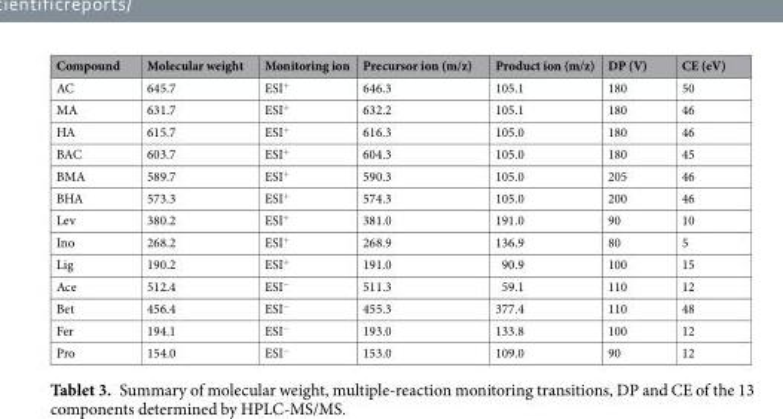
<table><thead><tr><td>Compound</td><td>Molecular weight</td><td>Monitoring ion</td><td>Precursor ion (m/z)</td><td>Product ion (m/z)</td><td>DP (V)</td><td>CE (eV)</td></tr></thead><tbody><tr><td>AC</td><td>645.7</td><td>ESI<sup>+</sup></td><td>646.3</td><td>105.1</td><td>180</td><td>50</td></tr><tr><td>MA</td><td>631.7</td><td>ESI<sup>+</sup></td><td>632.2</td><td>105.1</td><td>180</td><td>46</td></tr><tr><td>HA</td><td>615.7</td><td>ESI<sup>+</sup></td><td>616.3</td><td>105.0</td><td>180</td><td>46</td></tr><tr><td>BAC</td><td>603.7</td><td>ESI<sup>+</sup></td><td>604.3</td><td>105.0</td><td>180</td><td>45</td></tr><tr><td>BMA</td><td>589.7</td><td>ESI<sup>+</sup></td><td>590.3</td><td>105.0</td><td>205</td><td>46</td></tr><tr><td>BHA</td><td>573.3</td><td>ESI<sup>+</sup></td><td>574.3</td><td>105.0</td><td>200</td><td>46</td></tr><tr><td>Lev</td><td>380.2</td><td>ESI<sup>+</sup></td><td>381.0</td><td>191.0</td><td>90</td><td>10</td></tr><tr><td>Ino</td><td>268.2</td><td>ESI<sup>+</sup></td><td>268.9</td><td>136.9</td><td>80</td><td>5</td></tr><tr><td>Lig</td><td>190.2</td><td>ESI<sup>+</sup></td><td>191.0</td><td>90.9</td><td>100</td><td>15</td></tr><tr><td>Ace</td><td>512.4</td><td>ESI<sup>−</sup></td><td>511.3</td><td>59.1</td><td>110</td><td>12</td></tr><tr><td>Bet</td><td>456.4</td><td>ESI<sup>−</sup></td><td>455.3</td><td>377.4</td><td>110</td><td>48</td></tr><tr><td>Fer</td><td>194.1</td><td>ESI<sup>−</sup></td><td>193.0</td><td>133.8</td><td>100</td><td>12</td></tr><tr><td>Pro</td><td>154.0</td><td>ESI<sup>−</sup></td><td>153.0</td><td>109.0</td><td>90</td><td>12</td></tr></tbody></table>